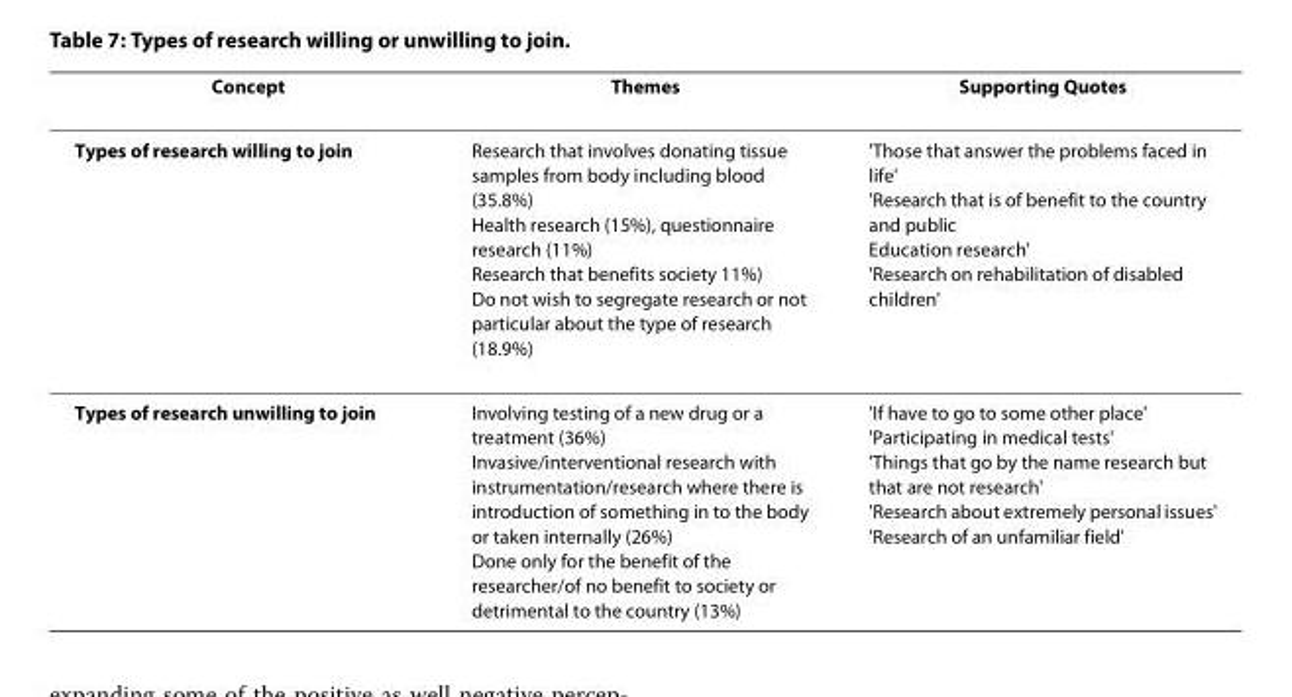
<table><thead><tr><td>Concept</td><td>Themes</td><td>Supporting Quotes</td></tr></thead><tbody><tr><td>Types of research willing to join</td><td>Research that involves donating tissue samples from body including blood (35.8%) Health research (15%), questionnaire research (11%) Research that benefits society 11%) Do not wish to segregate research or not particular about the type of research (18.9%)</td><td>&#x27;Those that answer the problems faced in life&#x27; &#x27;Research that is of benefit to the country and public Education research&#x27; &#x27;Research on rehabilitation of disabled children&#x27;</td></tr><tr><td>Types of research unwilling to join</td><td>Involving testing of a new drug or a treatment (36%) Invasive/interventional research with instrumentation/research where there is introduction of something in to the body or taken internally (26%) Done only for the benefit of the researcher/of no benefit to society or detrimental to the country (13%)</td><td>&#x27;If have to go to some other place&#x27; &#x27;Participating in medical tests&#x27; &#x27;Things that go by the name research but that are not research&#x27; &#x27;Research about extremely personal issues&#x27; &#x27;Research of an unfamiliar field&#x27;</td></tr></tbody></table>